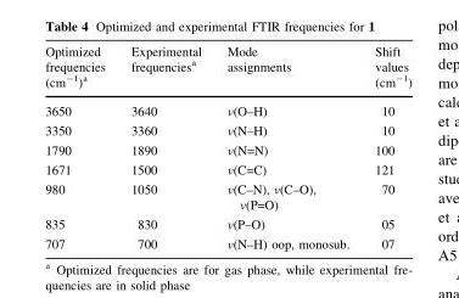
<table><thead><tr><td>Optimized frequencies (cm<sup>-1</sup>)<sup>a</sup></td><td>Experimental frequencies<sup>a</sup></td><td>Mode assignments</td><td>Shift values (cm<sup>-1</sup>)</td></tr></thead><tbody><tr><td>3650</td><td>3640</td><td>v(O–H)</td><td>10</td></tr><tr><td>3350</td><td>3360</td><td>v(N–H)</td><td>10</td></tr><tr><td>1790</td><td>1890</td><td>v(N=N)</td><td>100</td></tr><tr><td>1671</td><td>1500</td><td>v(C=C)</td><td>121</td></tr><tr><td>980</td><td>1050</td><td>v(C–N), v(C–O), v(P=O)</td><td>70</td></tr><tr><td>835</td><td>830</td><td>v(P–O)</td><td>05</td></tr><tr><td>707</td><td>700</td><td>v(N–H) oop, monosub.</td><td>07</td></tr></tbody></table>